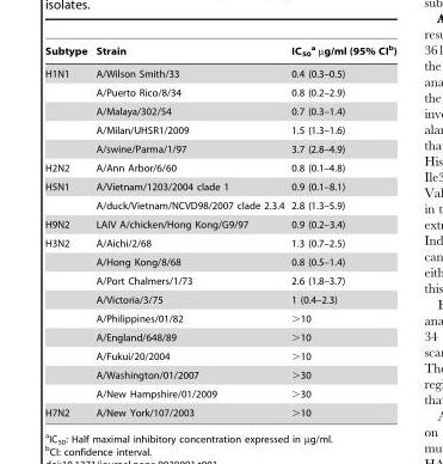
<table><thead><tr><td>Subtype</td><td>Strain</td><td>IC<sub>50</sub> a µg/ml (95% CI<sup>b</sup>)</td></tr></thead><tbody><tr><td rowspan="5">H1N1</td><td>A/Wilson Smith/33</td><td>0.4 (0.3–0.5)</td></tr><tr><td>A/Puerto Rico/8/34</td><td>0.8 (0.2–2.9)</td></tr><tr><td>A/Malaya/302/54</td><td>0.7 (0.3–1.4)</td></tr><tr><td>A/Milan/UHSR1/2009</td><td>1.5 (1.3–1.6)</td></tr><tr><td>A/swine/Parma/1/97</td><td>3.7 (2.8–4.9)</td></tr><tr><td>H2N2</td><td>A/Ann Arbor/6/60</td><td>0.8 (0.1–4.8)</td></tr><tr><td rowspan="2">H5N1</td><td>A/Vietnam/1203/2004 clade 1</td><td>0.9 (0.1–8.1)</td></tr><tr><td>A/duck/Vietnam/NCVD98/2007 clade 2.3.4</td><td>2.8 (1.3–5.9)</td></tr><tr><td>H9N2</td><td>LAIV A/chicken/Hong Kong/G9/97</td><td>0.9 (0.2–3.4)</td></tr><tr><td rowspan="9">H3N2</td><td>A/Aichi/2/68</td><td>1.3 (0.7–2.5)</td></tr><tr><td>A/Hong Kong/8/68</td><td>0.8 (0.5–1.4)</td></tr><tr><td>A/Port Chalmers/1/73</td><td>2.6 (1.8–3.7)</td></tr><tr><td>A/Victoria/3/75</td><td>1 (0.4–2.3)</td></tr><tr><td>A/Philippines/01/82</td><td>&gt;10</td></tr><tr><td>A/England/648/89</td><td>&gt;10</td></tr><tr><td>A/Fukui/20/2004</td><td>&gt;10</td></tr><tr><td>A/Washington/01/2007</td><td>&gt;30</td></tr><tr><td>A/New Hampshire/01/2009</td><td>&gt;30</td></tr><tr><td>H7N2</td><td>A/New York/107/2003</td><td>&gt;10</td></tr></tbody></table>